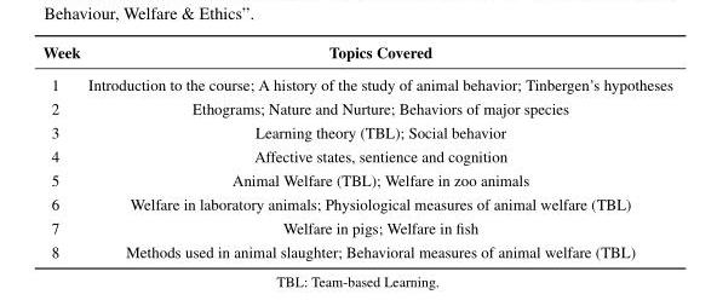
<table><thead><tr><td>Week</td><td>Topics Covered</td></tr></thead><tbody><tr><td>1</td><td>Introduction to the course; A history of the study of animal behavior; Tinbergen’s hypotheses</td></tr><tr><td>2</td><td>Ethograms; Nature and Nurture; Behaviors of major species</td></tr><tr><td>3</td><td>Learning theory (TBL); Social behavior</td></tr><tr><td>4</td><td>Affective states, sentience and cognition</td></tr><tr><td>5</td><td>Animal Welfare (TBL); Welfare in zoo animals</td></tr><tr><td>6</td><td>Welfare in laboratory animals; Physiological measures of animal welfare (TBL)</td></tr><tr><td>7</td><td>Welfare in pigs; Welfare in fish</td></tr><tr><td>8</td><td>Methods used in animal slaughter; Behavioral measures of animal welfare (TBL)</td></tr></tbody></table>